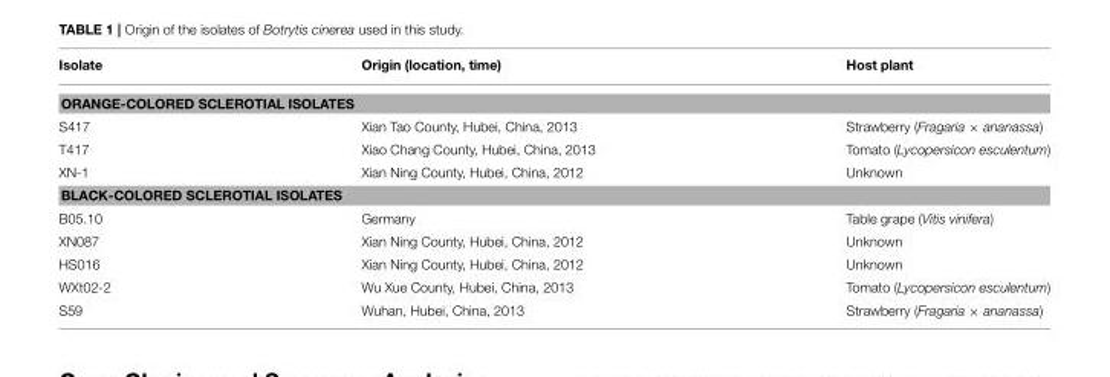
<table><thead><tr><td>Isolate</td><td>Origin (location, time)</td><td>Host plant</td></tr></thead><tbody><tr><td colspan="3">ORANGE-COLORED SCLEROTIAL ISOLATES</td></tr><tr><td>S417</td><td>Xian Tao County, Hubei, China, 2013</td><td>Strawberry (Fragaria × ananassa)</td></tr><tr><td>T417</td><td>Xiao Chang County, Hubei, China, 2013</td><td>Tomato (Lycopersicon esculentum)</td></tr><tr><td>XN-1</td><td>Xian Ning County, Hubei, China, 2012</td><td>Unknown</td></tr><tr><td colspan="3">BLACK-COLORED SCLEROTIAL ISOLATES</td></tr><tr><td>B05.10</td><td>Germany</td><td>Table grape (Vitis vinifera)</td></tr><tr><td>XN087</td><td>Xian Ning County, Hubei, China, 2012</td><td>Unknown</td></tr><tr><td>HS016</td><td>Xian Ning County, Hubei, China, 2012</td><td>Unknown</td></tr><tr><td>WXt02-2</td><td>Wu Xue County, Hubei, China, 2013</td><td>Tomato (Lycopersicon esculentum)</td></tr><tr><td>S59</td><td>Wuhan, Hubei, China, 2013</td><td>Strawberry (Fragaria × ananassa)</td></tr></tbody></table>